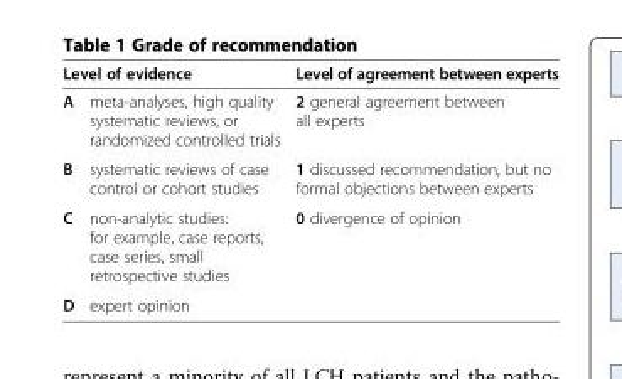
<table><thead><tr><td>Level of evidence</td><td>Level of agreement between experts</td></tr></thead><tbody><tr><td>A meta-analyses, high quality systematic reviews, or randomized controlled trials</td><td>2 general agreement between all experts</td></tr><tr><td>B systematic reviews of case control or cohort studies</td><td>1 discussed recommendation, but no formal objections between experts</td></tr><tr><td>C non-analytic studies: for example, case reports, case series, small retrospective studies</td><td>0 divergence of opinion</td></tr><tr><td>D expert opinion</td><td></td></tr></tbody></table>